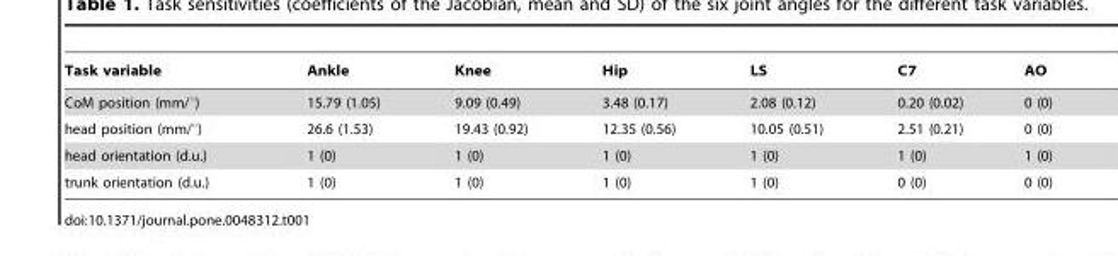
<table><thead><tr><td>Task variable</td><td>Ankle</td><td>Knee</td><td>Hip</td><td>LS</td><td>C7</td><td>AO</td></tr></thead><tbody><tr><td>CoM position (mm/°)</td><td>15.79 (1.05)</td><td>9.09 (0.49)</td><td>3.48 (0.17)</td><td>2.08 (0.12)</td><td>0.20 (0.02)</td><td>0 (0)</td></tr><tr><td>head position (mm/°)</td><td>26.6 (1.53)</td><td>19.43 (0.92)</td><td>12.35 (0.56)</td><td>10.05 (0.51)</td><td>2.51 (0.21)</td><td>0 (0)</td></tr><tr><td>head orientation (d.u.)</td><td>1 (0)</td><td>1 (0)</td><td>1 (0)</td><td>1 (0)</td><td>1 (0)</td><td>1 (0)</td></tr><tr><td>trunk orientation (d.u.)</td><td>1 (0)</td><td>1 (0)</td><td>1 (0)</td><td>1 (0)</td><td>0 (0)</td><td>0 (0)</td></tr></tbody></table>